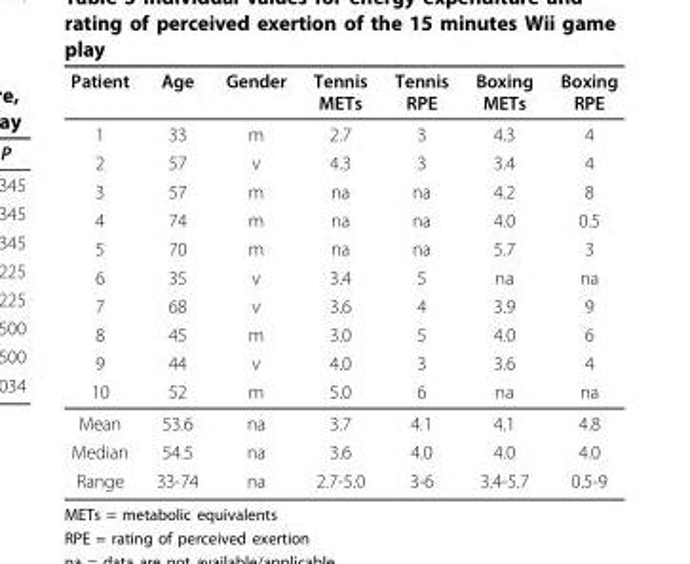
<table><thead><tr><td>Patient</td><td>Age</td><td>Gender</td><td>Tennis METs</td><td>Tennis RPE</td><td>Boxing METs</td><td>Boxing RPE</td></tr></thead><tbody><tr><td>1</td><td>33</td><td>m</td><td>2.7</td><td>3</td><td>4.3</td><td>4</td></tr><tr><td>2</td><td>57</td><td>v</td><td>4.3</td><td>3</td><td>3.4</td><td>4</td></tr><tr><td>3</td><td>57</td><td>m</td><td>na</td><td>na</td><td>4.2</td><td>8</td></tr><tr><td>4</td><td>74</td><td>m</td><td>na</td><td>na</td><td>4.0</td><td>0.5</td></tr><tr><td>5</td><td>70</td><td>m</td><td>na</td><td>na</td><td>5.7</td><td>3</td></tr><tr><td>6</td><td>35</td><td>v</td><td>3.4</td><td>5</td><td>na</td><td>na</td></tr><tr><td>7</td><td>68</td><td>v</td><td>3.6</td><td>4</td><td>3.9</td><td>9</td></tr><tr><td>8</td><td>45</td><td>m</td><td>3.0</td><td>5</td><td>4.0</td><td>6</td></tr><tr><td>9</td><td>44</td><td>v</td><td>4.0</td><td>3</td><td>3.6</td><td>4</td></tr><tr><td>10</td><td>52</td><td>m</td><td>5.0</td><td>6</td><td>na</td><td>na</td></tr><tr><td>Mean</td><td>53.6</td><td>na</td><td>3.7</td><td>4.1</td><td>4.1</td><td>4.8</td></tr><tr><td>Median</td><td>54.5</td><td>na</td><td>3.6</td><td>4.0</td><td>4.0</td><td>4.0</td></tr><tr><td>Range</td><td>33-74</td><td>na</td><td>2.7-5.0</td><td>3-6</td><td>3.4-5.7</td><td>0.5-9</td></tr></tbody></table>